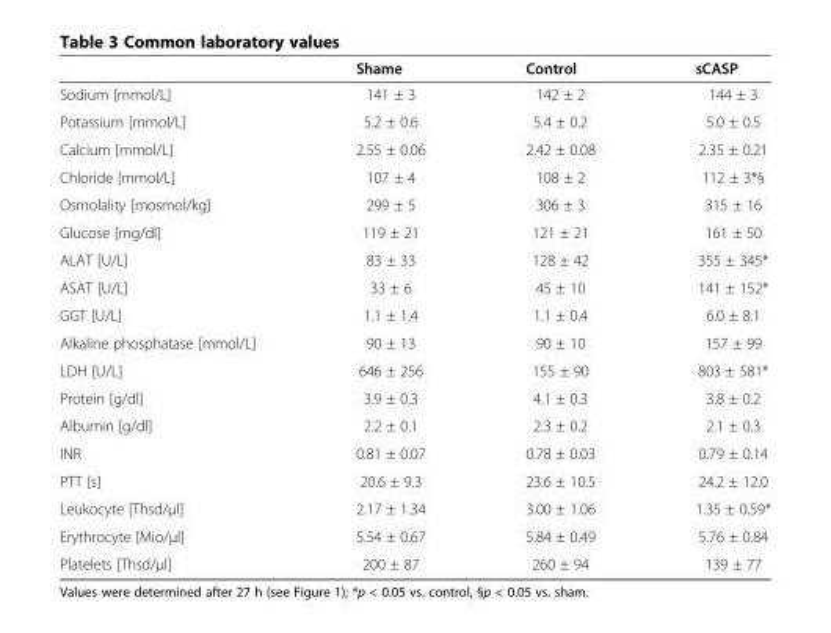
<table><thead><tr><td></td><td>Shame</td><td>Control</td><td>sCASP</td></tr></thead><tbody><tr><td>Sodium [mmol/L]</td><td>141 ± 3</td><td>142 ± 2</td><td>144 ± 3</td></tr><tr><td>Potassium [mmol/L]</td><td>5.2 ± 0.6</td><td>5.4 ± 0.2</td><td>5.0 ± 0.5</td></tr><tr><td>Calcium [mmol/L]</td><td>2.55 ± 0.06</td><td>2.42 ± 0.08</td><td>2.35 ± 0.21</td></tr><tr><td>Chloride [mmol/L]</td><td>107 ± 4</td><td>108 ± 2</td><td>112 ± 3*§</td></tr><tr><td>Osmolality [mosmol/kg]</td><td>299 ± 5</td><td>306 ± 3</td><td>315 ± 16</td></tr><tr><td>Glucose [mg/dl]</td><td>119 ± 21</td><td>121 ± 21</td><td>161 ± 50</td></tr><tr><td>ALAT [U/L]</td><td>83 ± 33</td><td>128 ± 42</td><td>355 ± 345*</td></tr><tr><td>ASAT [U/L]</td><td>33 ± 6</td><td>45 ± 10</td><td>141 ± 152*</td></tr><tr><td>GGT [U/L]</td><td>1.1 ± 1.4</td><td>1.1 ± 0.4</td><td>6.0 ± 8.1</td></tr><tr><td>Alkaline phosphatase [mmol/L]</td><td>90 ± 13</td><td>90 ± 10</td><td>157 ± 99</td></tr><tr><td>LDH [U/L]</td><td>646 ± 256</td><td>155 ± 90</td><td>803 ± 581*</td></tr><tr><td>Protein [g/dl]</td><td>3.9 ± 0.3</td><td>4.1 ± 0.3</td><td>3.8 ± 0.2</td></tr><tr><td>Albumin [g/dl]</td><td>2.2 ± 0.1</td><td>2.3 ± 0.2</td><td>2.1 ± 0.3</td></tr><tr><td>INR</td><td>0.81 ± 0.07</td><td>0.78 ± 0.03</td><td>0.79 ± 0.14</td></tr><tr><td>PTT [s]</td><td>20.6 ± 9.3</td><td>23.6 ± 10.5</td><td>24.2 ± 12.0</td></tr><tr><td>Leukocyte [Thsd/μl]</td><td>2.17 ± 1.34</td><td>3.00 ± 1.06</td><td>1.35 ± 0.59*</td></tr><tr><td>Erythrocyte [Mio/μl]</td><td>5.54 ± 0.67</td><td>5.84 ± 0.49</td><td>5.76 ± 0.84</td></tr><tr><td>Platelets [Thsd/μl]</td><td>200 ± 87</td><td>260 ± 94</td><td>139 ± 77</td></tr></tbody></table>